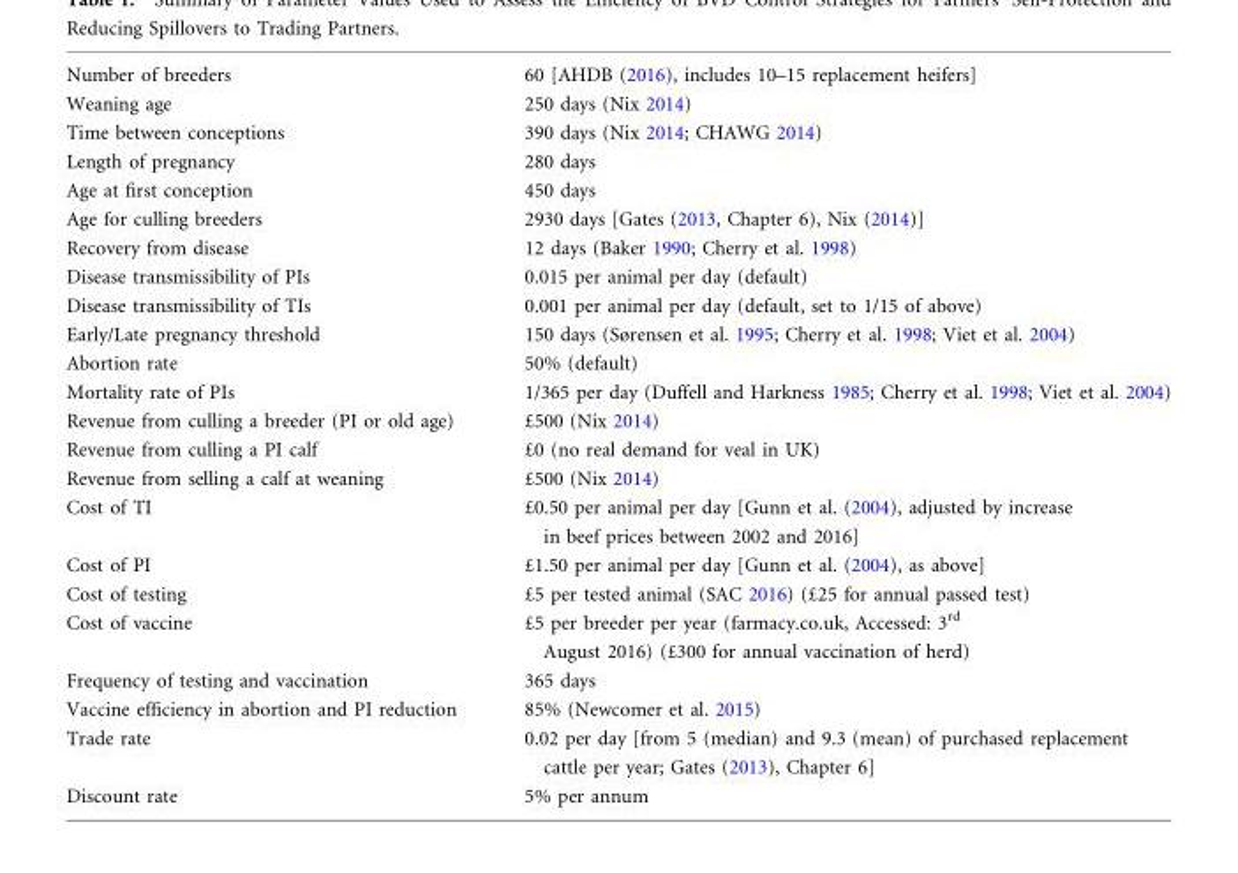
<table><tbody><tr><td>Number of breeders</td><td>60 [AHDB (2016), includes 10–15 replacement heifers]</td></tr><tr><td>Weaning age</td><td>250 days (Nix 2014)</td></tr><tr><td>Time between conceptions</td><td>390 days (Nix 2014; CHAWG 2014)</td></tr><tr><td>Length of pregnancy</td><td>280 days</td></tr><tr><td>Age at first conception</td><td>450 days</td></tr><tr><td>Age for culling breeders</td><td>2930 days [Gates (2013, Chapter 6), Nix (2014)]</td></tr><tr><td>Recovery from disease</td><td>12 days (Baker 1990; Cherry et al. 1998)</td></tr><tr><td>Disease transmissibility of PIs</td><td>0.015 per animal per day (default)</td></tr><tr><td>Disease transmissibility of TIs</td><td>0.001 per animal per day (default, set to 1/15 of above)</td></tr><tr><td>Early/Late pregnancy threshold</td><td>150 days (Sørensen et al. 1995; Cherry et al. 1998; Viet et al. 2004)</td></tr><tr><td>Abortion rate</td><td>50% (default)</td></tr><tr><td>Mortality rate of PIs</td><td>1/365 per day (Duffell and Harkness 1985; Cherry et al. 1998; Viet et al. 2004)</td></tr><tr><td>Revenue from culling a breeder (PI or old age)</td><td>£500 (Nix 2014)</td></tr><tr><td>Revenue from culling a PI calf</td><td>£0 (no real demand for veal in UK)</td></tr><tr><td>Revenue from selling a calf at weaning</td><td>£500 (Nix 2014)</td></tr><tr><td>Cost of TI</td><td>£0.50 per animal per day [Gunn et al. (2004), adjusted by increase in beef prices between 2002 and 2016]</td></tr><tr><td>Cost of PI</td><td>£1.50 per animal per day [Gunn et al. (2004), as above]</td></tr><tr><td>Cost of testing</td><td>£5 per tested animal (SAC 2016) (£25 for annual passed test)</td></tr><tr><td>Cost of vaccine</td><td>£5 per breeder per year (farmacy.co.uk, Accessed: 3<sup>rd</sup> August 2016) (£300 for annual vaccination of herd)</td></tr><tr><td>Frequency of testing and vaccination</td><td>365 days</td></tr><tr><td>Vaccine efficiency in abortion and PI reduction</td><td>85% (Newcomer et al. 2015)</td></tr><tr><td>Trade rate</td><td>0.02 per day [from 5 (median) and 9.3 (mean) of purchased replacement cattle per year; Gates (2013), Chapter 6]</td></tr><tr><td>Discount rate</td><td>5% per annum</td></tr></tbody></table>